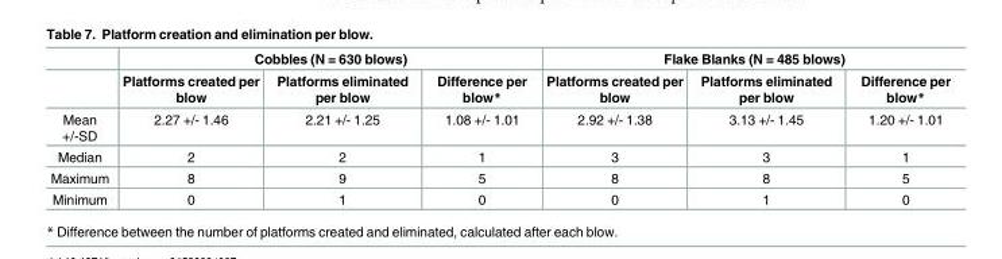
<table><thead><tr><td rowspan="2"></td><td colspan="3">Cobbles (N = 630 blows)</td><td colspan="3">Flake Blanks (N = 485 blows)</td></tr><tr><td>Platforms created per blow</td><td>Platforms eliminated per blow</td><td>Difference per blow*</td><td>Platforms created per blow</td><td>Platforms eliminated per blow</td><td>Difference per blow*</td></tr></thead><tbody><tr><td>Mean +/-SD</td><td>2.27 +/- 1.46</td><td>2.21 +/- 1.25</td><td>1.08 +/- 1.01</td><td>2.92 +/- 1.38</td><td>3.13 +/- 1.45</td><td>1.20 +/- 1.01</td></tr><tr><td>Median</td><td>2</td><td>2</td><td>1</td><td>3</td><td>3</td><td>1</td></tr><tr><td>Maximum</td><td>8</td><td>9</td><td>5</td><td>8</td><td>8</td><td>5</td></tr><tr><td>Minimum</td><td>0</td><td>1</td><td>0</td><td>0</td><td>1</td><td>0</td></tr></tbody></table>